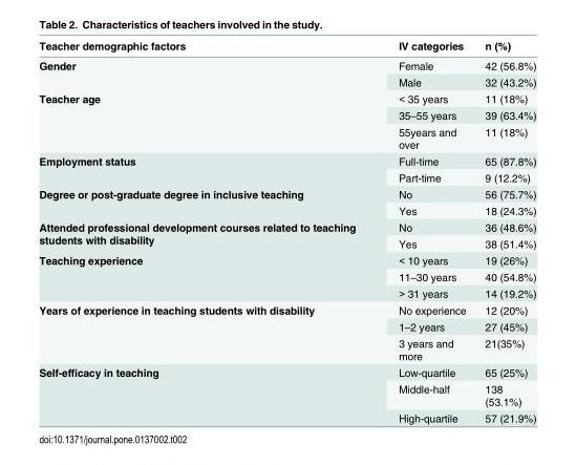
<table><thead><tr><td>Teacher demographic factors</td><td>IV categories</td><td>n (%)</td></tr></thead><tbody><tr><td rowspan="2">Gender</td><td>Female</td><td>42 (56.8%)</td></tr><tr><td>Male</td><td>32 (43.2%)</td></tr><tr><td rowspan="3">Teacher age</td><td>&lt; 35 years</td><td>11 (18%)</td></tr><tr><td>35–55 years</td><td>39 (63.4%)</td></tr><tr><td>55years and over</td><td>11 (18%)</td></tr><tr><td rowspan="2">Employment status</td><td>Full-time</td><td>65 (87.8%)</td></tr><tr><td>Part-time</td><td>9 (12.2%)</td></tr><tr><td rowspan="2">Degree or post-graduate degree in inclusive teaching</td><td>No</td><td>56 (75.7%)</td></tr><tr><td>Yes</td><td>18 (24.3%)</td></tr><tr><td rowspan="2">Attended professional development courses related to teaching students with disability</td><td>No</td><td>36 (48.6%)</td></tr><tr><td>Yes</td><td>38 (51.4%)</td></tr><tr><td rowspan="3">Teaching experience</td><td>&lt; 10 years</td><td>19 (26%)</td></tr><tr><td>11–30 years</td><td>40 (54.8%)</td></tr><tr><td>&gt; 31 years</td><td>14 (19.2%)</td></tr><tr><td rowspan="3">Years of experience in teaching students with disability</td><td>No experience</td><td>12 (20%)</td></tr><tr><td>1–2 years</td><td>27 (45%)</td></tr><tr><td>3 years and more</td><td>21(35%)</td></tr><tr><td rowspan="3">Self-efficacy in teaching</td><td>Low-quartile</td><td>65 (25%)</td></tr><tr><td>Middle-half</td><td>138 (53.1%)</td></tr><tr><td>High-quartile</td><td>57 (21.9%)</td></tr></tbody></table>